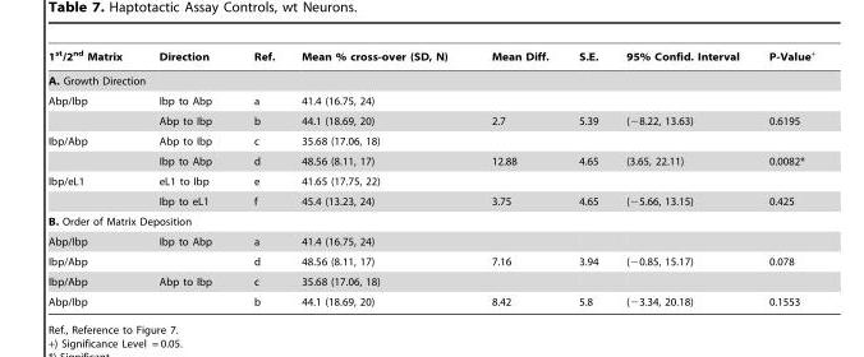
<table><thead><tr><td>1<sup>st</sup>/2<sup>nd</sup> Matrix</td><td>Direction</td><td>Ref.</td><td>Mean % cross-over (SD, N)</td><td>Mean Diff.</td><td>S.E.</td><td>95% Confid. Interval</td><td>P-Value<sup>+</sup></td></tr></thead><tbody><tr><td colspan="8">A. Growth Direction</td></tr><tr><td rowspan="2">Abp/Ibp</td><td>Ibp to Abp</td><td>a</td><td>41.4 (16.75, 24)</td><td></td><td></td><td></td><td></td></tr><tr><td>Abp to Ibp</td><td>b</td><td>44.1 (18.69, 20)</td><td>2.7</td><td>5.39</td><td>(−8.22, 13.63)</td><td>0.6195</td></tr><tr><td rowspan="2">Ibp/Abp</td><td>Abp to Ibp</td><td>c</td><td>35.68 (17.06, 18)</td><td></td><td></td><td></td><td></td></tr><tr><td>Ibp to Abp</td><td>d</td><td>48.56 (8.11, 17)</td><td>12.88</td><td>4.65</td><td>(3.65, 22.11)</td><td>0.0082*</td></tr><tr><td rowspan="2">Ibp/eL1</td><td>eL1 to Ibp</td><td>e</td><td>41.65 (17.75, 22)</td><td></td><td></td><td></td><td></td></tr><tr><td>Ibp to eL1</td><td>f</td><td>45.4 (13.23, 24)</td><td>3.75</td><td>4.65</td><td>(−5.66, 13.15)</td><td>0.425</td></tr><tr><td colspan="8">B. Order of Matrix Deposition</td></tr><tr><td>Abp/Ibp</td><td>Ibp to Abp</td><td>a</td><td>41.4 (16.75, 24)</td><td></td><td></td><td></td><td></td></tr><tr><td>Ibp/Abp</td><td></td><td>d</td><td>48.56 (8.11, 17)</td><td>7.16</td><td>3.94</td><td>(−0.85, 15.17)</td><td>0.078</td></tr><tr><td>Ibp/Abp</td><td>Abp to Ibp</td><td>c</td><td>35.68 (17.06, 18)</td><td></td><td></td><td></td><td></td></tr><tr><td>Abp/Ibp</td><td></td><td>b</td><td>44.1 (18.69, 20)</td><td>8.42</td><td>5.8</td><td>(−3.34, 20.18)</td><td>0.1553</td></tr></tbody></table>